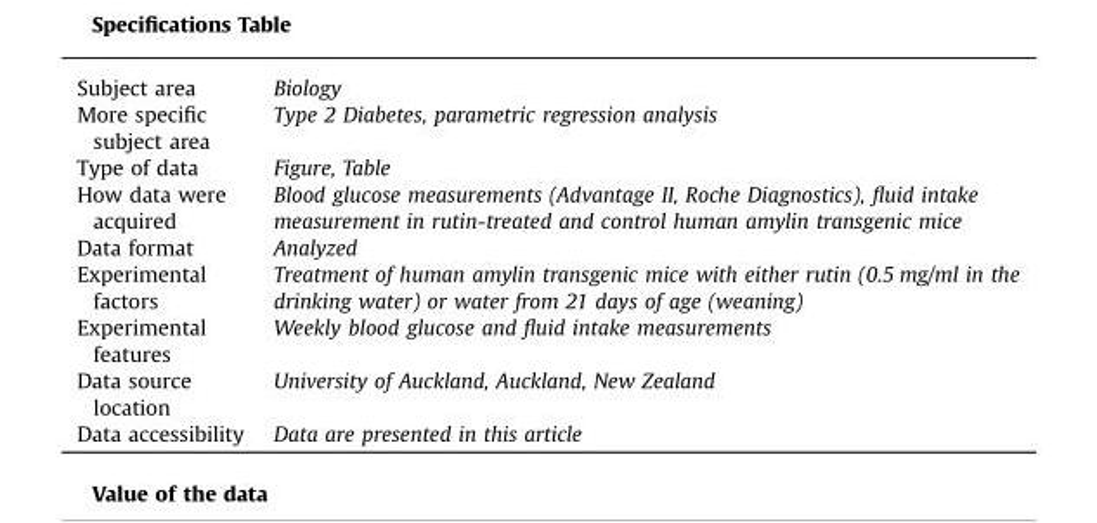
<table><tbody><tr><td>Subject area</td><td>Biology</td></tr><tr><td>More specific subject area</td><td>Type 2 Diabetes, parametric regression analysis</td></tr><tr><td>Type of data</td><td>Figure, Table</td></tr><tr><td>How data were acquired</td><td>Blood glucose measurements (Advantage II, Roche Diagnostics), fluid intake measurement in rutin-treated and control human amylin transgenic mice</td></tr><tr><td>Data format</td><td>Analyzed</td></tr><tr><td>Experimental factors</td><td>Treatment of human amylin transgenic mice with either rutin (0.5 mg/ml in the drinking water) or water from 21 days of age (weaning)</td></tr><tr><td>Experimental features</td><td>Weekly blood glucose and fluid intake measurements</td></tr><tr><td>Data source location</td><td>University of Auckland, Auckland, New Zealand</td></tr><tr><td>Data accessibility</td><td>Data are presented in this article</td></tr></tbody></table>